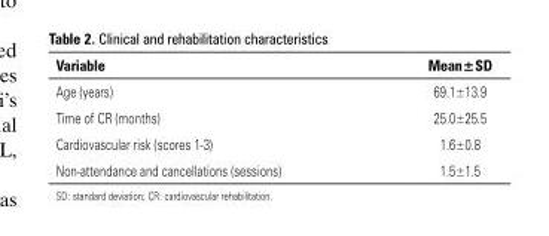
<table><thead><tr><td>Variable</td><td>Mean±SD</td></tr></thead><tbody><tr><td>Age (years)</td><td>69.1±13.9</td></tr><tr><td>Time of CR (months)</td><td>25.0±25.5</td></tr><tr><td>Cardiovascular risk (scores 1-3)</td><td>1.6±0.8</td></tr><tr><td>Non-attendance and cancellations (sessions)</td><td>1.5±1.5</td></tr></tbody></table>